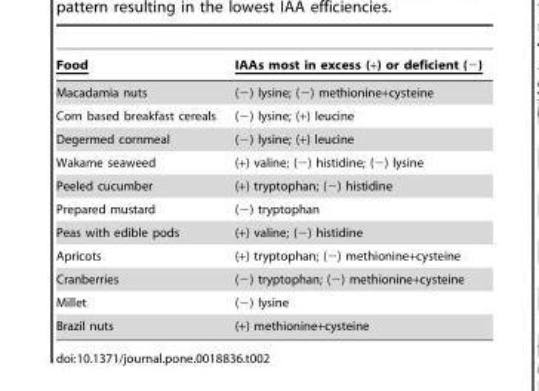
<table><thead><tr><td>Food</td><td>IAAs most in excess (+) or deficient (−)</td></tr></thead><tbody><tr><td>Macadamia nuts</td><td>(−) lysine; (−) methionine+cysteine</td></tr><tr><td>Corn based breakfast cereals</td><td>(−) lysine; (+) leucine</td></tr><tr><td>Degermed cornmeal</td><td>(−) lysine; (+) leucine</td></tr><tr><td>Wakame seaweed</td><td>(+) valine; (−) histidine; (−) lysine</td></tr><tr><td>Peeled cucumber</td><td>(+) tryptophan; (−) histidine</td></tr><tr><td>Prepared mustard</td><td>(−) tryptophan</td></tr><tr><td>Peas with edible pods</td><td>(+) valine; (−) histidine</td></tr><tr><td>Apricots</td><td>(+) tryptophan; (−) methionine+cysteine</td></tr><tr><td>Cranberries</td><td>(−) tryptophan; (−) methionine+cysteine</td></tr><tr><td>Millet</td><td>(−) lysine</td></tr><tr><td>Brazil nuts</td><td>(+) methionine+cysteine</td></tr></tbody></table>